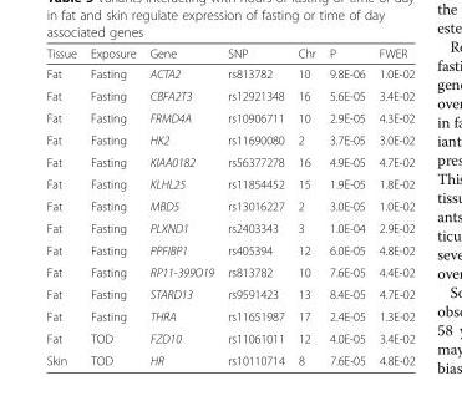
<table><thead><tr><td>Tissue</td><td>Exposure</td><td>Gene</td><td>SNP</td><td>Chr</td><td>P</td><td>FWER</td></tr></thead><tbody><tr><td>Fat</td><td>Fasting</td><td>ACTA2</td><td>rs813782</td><td>10</td><td>9.8E-06</td><td>1.0E-02</td></tr><tr><td>Fat</td><td>Fasting</td><td>CBFA2T3</td><td>rs12921348</td><td>16</td><td>5.6E-05</td><td>3.4E-02</td></tr><tr><td>Fat</td><td>Fasting</td><td>FRMD4A</td><td>rs10906711</td><td>10</td><td>2.9E-05</td><td>4.3E-02</td></tr><tr><td>Fat</td><td>Fasting</td><td>HK2</td><td>rs11690080</td><td>2</td><td>3.7E-05</td><td>3.0E-02</td></tr><tr><td>Fat</td><td>Fasting</td><td>KIAA0182</td><td>rs56377278</td><td>16</td><td>4.9E-05</td><td>4.7E-02</td></tr><tr><td>Fat</td><td>Fasting</td><td>KLHL25</td><td>rs11854452</td><td>15</td><td>1.9E-05</td><td>1.8E-02</td></tr><tr><td>Fat</td><td>Fasting</td><td>MBD5</td><td>rs13016227</td><td>2</td><td>3.0E-05</td><td>1.0E-02</td></tr><tr><td>Fat</td><td>Fasting</td><td>PLXND1</td><td>rs2403343</td><td>3</td><td>1.0E-04</td><td>2.9E-02</td></tr><tr><td>Fat</td><td>Fasting</td><td>PPFIBP1</td><td>rs405394</td><td>12</td><td>6.0E-05</td><td>4.8E-02</td></tr><tr><td>Fat</td><td>Fasting</td><td>RP11-399O19</td><td>rs813782</td><td>10</td><td>7.6E-05</td><td>4.4E-02</td></tr><tr><td>Fat</td><td>Fasting</td><td>STARD13</td><td>rs9591423</td><td>13</td><td>8.4E-05</td><td>4.7E-02</td></tr><tr><td>Fat</td><td>Fasting</td><td>THRA</td><td>rs11651987</td><td>17</td><td>2.4E-05</td><td>1.3E-02</td></tr><tr><td>Fat</td><td>TOD</td><td>FZD10</td><td>rs11061011</td><td>12</td><td>4.0E-05</td><td>3.4E-02</td></tr><tr><td>Skin</td><td>TOD</td><td>HR</td><td>rs10110714</td><td>8</td><td>7.6E-05</td><td>4.8E-02</td></tr></tbody></table>